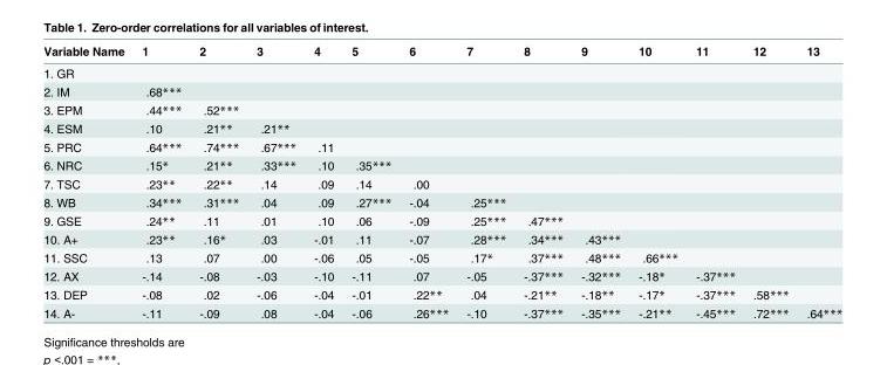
<table><thead><tr><td>Variable Name</td><td>1</td><td>2</td><td>3</td><td>4</td><td>5</td><td>6</td><td>7</td><td>8</td><td>9</td><td>10</td><td>11</td><td>12</td><td>13</td></tr></thead><tbody><tr><td colspan="14">1. GR</td></tr><tr><td>2. IM</td><td>.68***</td><td></td><td></td><td></td><td></td><td></td><td></td><td></td><td></td><td></td><td></td><td></td><td></td></tr><tr><td>3. EPM</td><td>.44***</td><td>.52***</td><td></td><td></td><td></td><td></td><td></td><td></td><td></td><td></td><td></td><td></td><td></td></tr><tr><td>4. ESM</td><td>.10</td><td>.21**</td><td>.21**</td><td></td><td></td><td></td><td></td><td></td><td></td><td></td><td></td><td></td><td></td></tr><tr><td>5. PRC</td><td>.64***</td><td>.74***</td><td>.67***</td><td>.11</td><td></td><td></td><td></td><td></td><td></td><td></td><td></td><td></td><td></td></tr><tr><td>6. NRC</td><td>.15*</td><td>.21**</td><td>.33***</td><td>.10</td><td>.35***</td><td></td><td></td><td></td><td></td><td></td><td></td><td></td><td></td></tr><tr><td>7. TSC</td><td>.23**</td><td>.22**</td><td>.14</td><td>.09</td><td>.14</td><td>.00</td><td></td><td></td><td></td><td></td><td></td><td></td><td></td></tr><tr><td>8. WB</td><td>.34***</td><td>.31***</td><td>.04</td><td>.09</td><td>.27***</td><td>-.04</td><td>.25***</td><td></td><td></td><td></td><td></td><td></td><td></td></tr><tr><td>9. GSE</td><td>.24**</td><td>.11</td><td>.01</td><td>.10</td><td>.06</td><td>-.09</td><td>.25***</td><td>.47***</td><td></td><td></td><td></td><td></td><td></td></tr><tr><td>10. A+</td><td>.23**</td><td>.16*</td><td>.03</td><td>-.01</td><td>.11</td><td>-.07</td><td>.28***</td><td>.34***</td><td>.43***</td><td></td><td></td><td></td><td></td></tr><tr><td>11. SSC</td><td>.13</td><td>.07</td><td>.00</td><td>-.06</td><td>.05</td><td>-.05</td><td>.17*</td><td>.37***</td><td>.48***</td><td>.66***</td><td></td><td></td><td></td></tr><tr><td>12. AX</td><td>-.14</td><td>-.08</td><td>-.03</td><td>-.10</td><td>-.11</td><td>.07</td><td>-.05</td><td>-.37***</td><td>-.32***</td><td>-.18*</td><td>-.37***</td><td></td><td></td></tr><tr><td>13. DEP</td><td>-.08</td><td>.02</td><td>-.06</td><td>-.04</td><td>-.01</td><td>.22**</td><td>.04</td><td>-.21**</td><td>-.18**</td><td>-.17*</td><td>-.37***</td><td>.58***</td><td></td></tr><tr><td>14. A-</td><td>-.11</td><td>-.09</td><td>.08</td><td>-.04</td><td>-.06</td><td>.26***</td><td>-.10</td><td>-.37***</td><td>-.35***</td><td>-.21**</td><td>-.45***</td><td>.72***</td><td>.64***</td></tr></tbody></table>